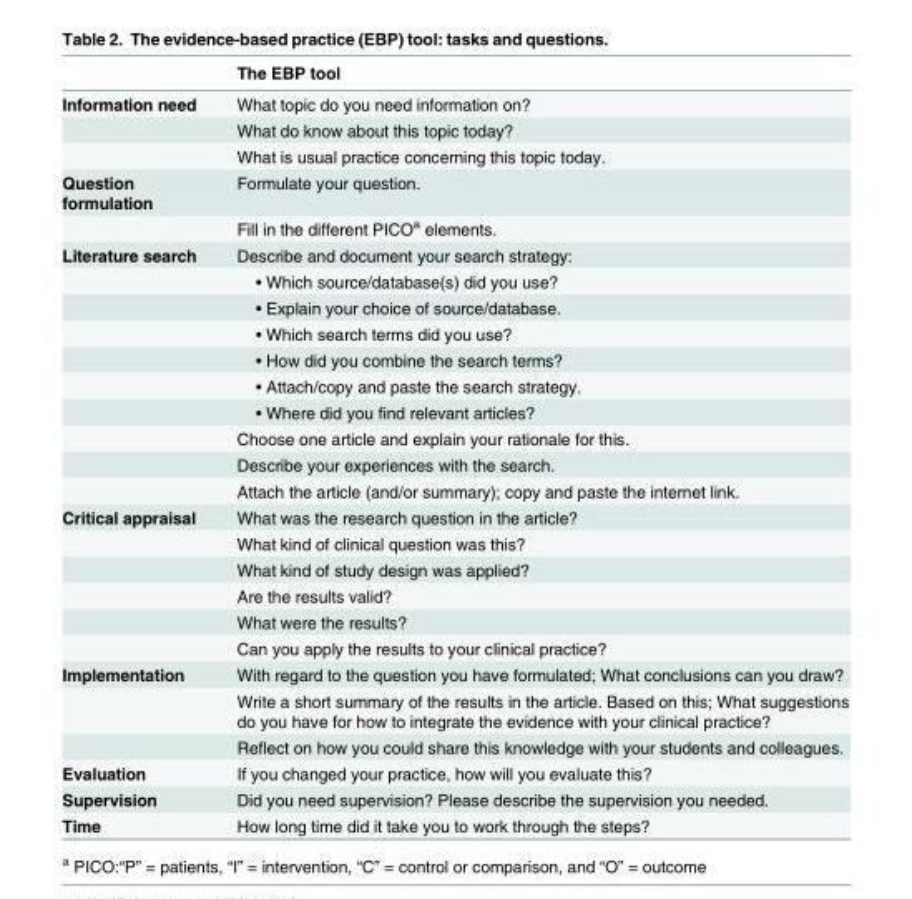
<table><thead><tr><td></td><td>The EBP tool</td></tr></thead><tbody><tr><td rowspan="3">Information need</td><td>What topic do you need information on?</td></tr><tr><td>What do know about this topic today?</td></tr><tr><td>What is usual practice concerning this topic today.</td></tr><tr><td rowspan="2">Question formulation</td><td>Formulate your question.</td></tr><tr><td>Fill in the different PICO<sup>a</sup> elements.</td></tr><tr><td rowspan="10">Literature search</td><td>Describe and document your search strategy:</td></tr><tr><td>• Which source/database(s) did you use?</td></tr><tr><td>• Explain your choice of source/database.</td></tr><tr><td>• Which search terms did you use?</td></tr><tr><td>• How did you combine the search terms?</td></tr><tr><td>• Attach/copy and paste the search strategy.</td></tr><tr><td>• Where did you find relevant articles?</td></tr><tr><td>Choose one article and explain your rationale for this.</td></tr><tr><td>Describe your experiences with the search.</td></tr><tr><td>Attach the article (and/or summary); copy and paste the internet link.</td></tr><tr><td rowspan="6">Critical appraisal</td><td>What was the research question in the article?</td></tr><tr><td>What kind of clinical question was this?</td></tr><tr><td>What kind of study design was applied?</td></tr><tr><td>Are the results valid?</td></tr><tr><td>What were the results?</td></tr><tr><td>Can you apply the results to your clinical practice?</td></tr><tr><td rowspan="3">Implementation</td><td>With regard to the question you have formulated; What conclusions can you draw?</td></tr><tr><td>Write a short summary of the results in the article. Based on this; What suggestions do you have for how to integrate the evidence with your clinical practice?</td></tr><tr><td>Reflect on how you could share this knowledge with your students and colleagues.</td></tr><tr><td>Evaluation</td><td>If you changed your practice, how will you evaluate this?</td></tr><tr><td>Supervision</td><td>Did you need supervision? Please describe the supervision you needed.</td></tr><tr><td>Time</td><td>How long time did it take you to work through the steps?</td></tr></tbody></table>